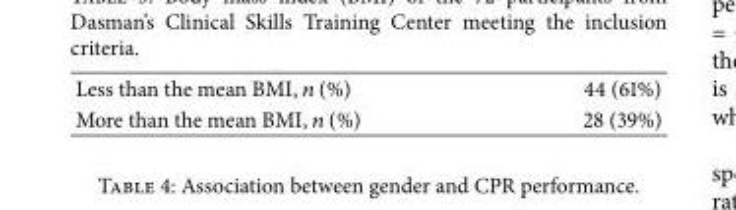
<table><tbody><tr><td>Less than the mean BMI, (%)</td><td>44 (61%)</td></tr><tr><td>More than the mean BMI, (%)</td><td>28 (39%)</td></tr></tbody></table>